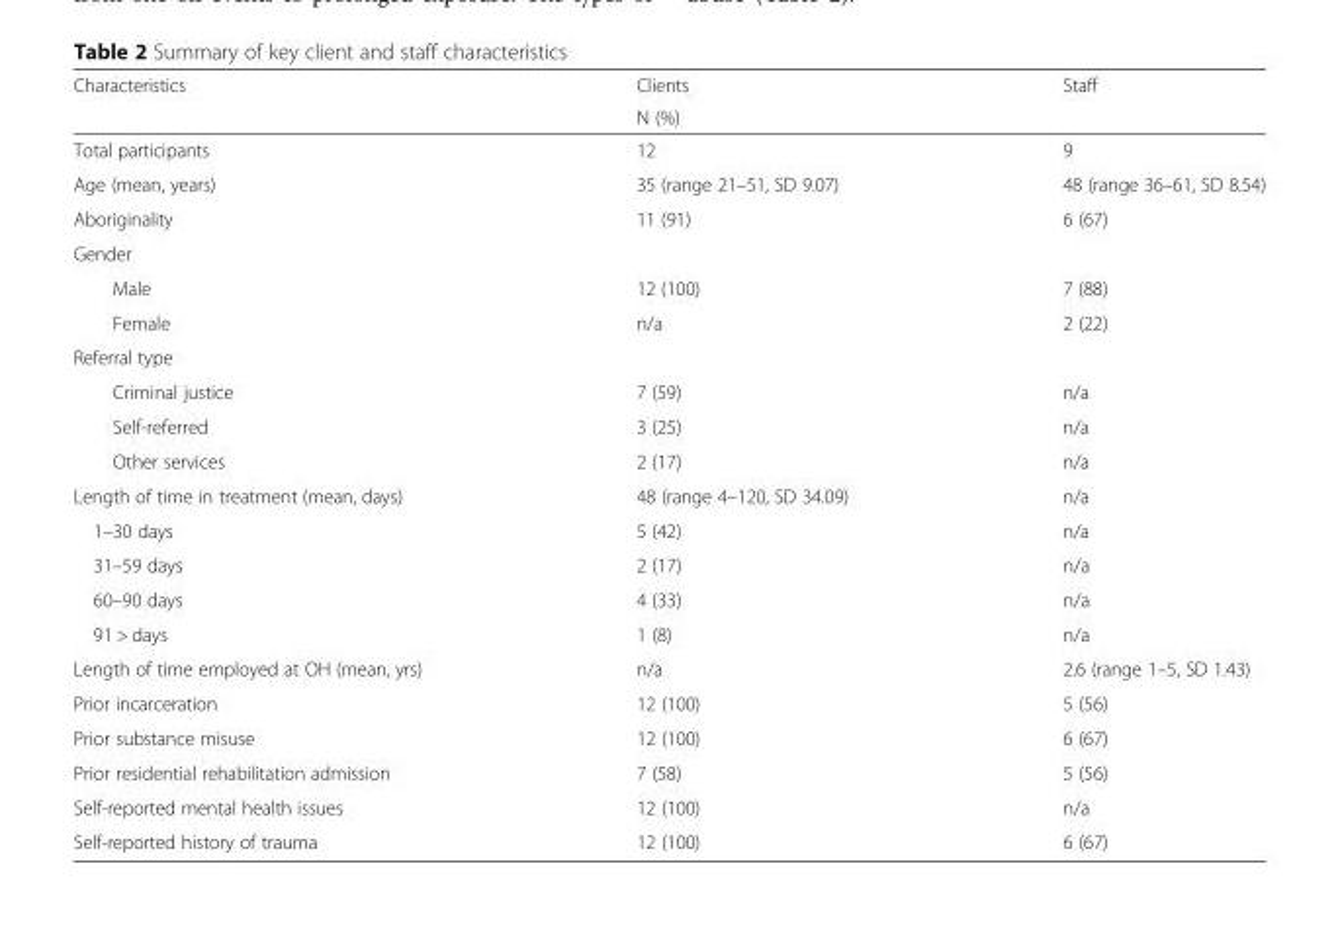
<table><thead><tr><td rowspan="2">Characteristics</td><td rowspan="2">Clients N (%)</td><td rowspan="2">Staff</td></tr><tr></tr></thead><tbody><tr><td>Total participants</td><td>12</td><td>9</td></tr><tr><td>Age (mean, years)</td><td>35 (range 21–51, SD 9.07)</td><td>48 (range 36–61, SD 8.54)</td></tr><tr><td>Aboriginality</td><td>11 (91)</td><td>6 (67)</td></tr><tr><td colspan="3">Gender</td></tr><tr><td>Male</td><td>12 (100)</td><td>7 (88)</td></tr><tr><td>Female</td><td>n/a</td><td>2 (22)</td></tr><tr><td colspan="3">Referral type</td></tr><tr><td>Criminal justice</td><td>7 (59)</td><td>n/a</td></tr><tr><td>Self-referred</td><td>3 (25)</td><td>n/a</td></tr><tr><td>Other services</td><td>2 (17)</td><td>n/a</td></tr><tr><td>Length of time in treatment (mean, days)</td><td>48 (range 4–120, SD 34.09)</td><td>n/a</td></tr><tr><td>1–30 days</td><td>5 (42)</td><td>n/a</td></tr><tr><td>31–59 days</td><td>2 (17)</td><td>n/a</td></tr><tr><td>60–90 days</td><td>4 (33)</td><td>n/a</td></tr><tr><td>91 &gt; days</td><td>1 (8)</td><td>n/a</td></tr><tr><td>Length of time employed at OH (mean, yrs)</td><td>n/a</td><td>2.6 (range 1–5, SD 1.43)</td></tr><tr><td>Prior incarceration</td><td>12 (100)</td><td>5 (56)</td></tr><tr><td>Prior substance misuse</td><td>12 (100)</td><td>6 (67)</td></tr><tr><td>Prior residential rehabilitation admission</td><td>7 (58)</td><td>5 (56)</td></tr><tr><td>Self-reported mental health issues</td><td>12 (100)</td><td>n/a</td></tr><tr><td>Self-reported history of trauma</td><td>12 (100)</td><td>6 (67)</td></tr></tbody></table>